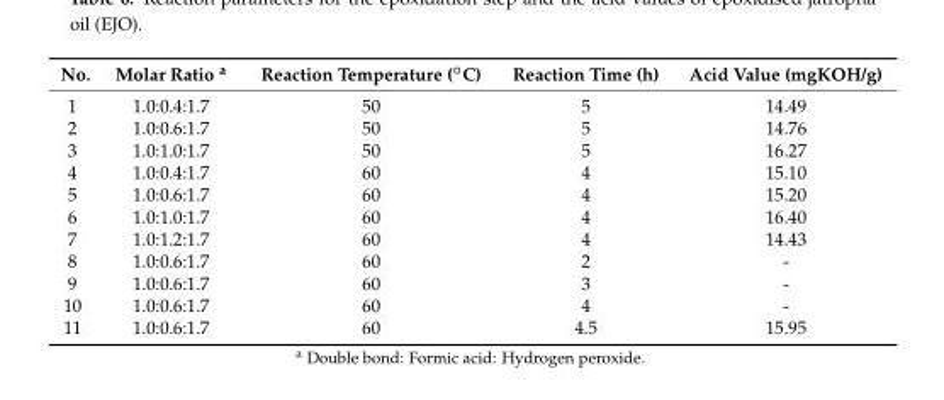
<table><thead><tr><td>No.</td><td>Molar Ratio <sup>a</sup></td><td>Reaction Temperature (◦C)</td><td>Reaction Time (h)</td><td>Acid Value (mgKOH/g)</td></tr></thead><tbody><tr><td>1</td><td>1.0:0.4:1.7</td><td>50</td><td>5</td><td>14.49</td></tr><tr><td>2</td><td>1.0:0.6:1.7</td><td>50</td><td>5</td><td>14.76</td></tr><tr><td>3</td><td>1.0:1.0:1.7</td><td>50</td><td>5</td><td>16.27</td></tr><tr><td>4</td><td>1.0:0.4:1.7</td><td>60</td><td>4</td><td>15.10</td></tr><tr><td>5</td><td>1.0:0.6:1.7</td><td>60</td><td>4</td><td>15.20</td></tr><tr><td>6</td><td>1.0:1.0:1.7</td><td>60</td><td>4</td><td>16.40</td></tr><tr><td>7</td><td>1.0:1.2:1.7</td><td>60</td><td>4</td><td>14.43</td></tr><tr><td>8</td><td>1.0:0.6:1.7</td><td>60</td><td>2</td><td>-</td></tr><tr><td>9</td><td>1.0:0.6:1.7</td><td>60</td><td>3</td><td>-</td></tr><tr><td>10</td><td>1.0:0.6:1.7</td><td>60</td><td>4</td><td>-</td></tr><tr><td>11</td><td>1.0:0.6:1.7</td><td>60</td><td>4.5</td><td>15.95</td></tr></tbody></table>